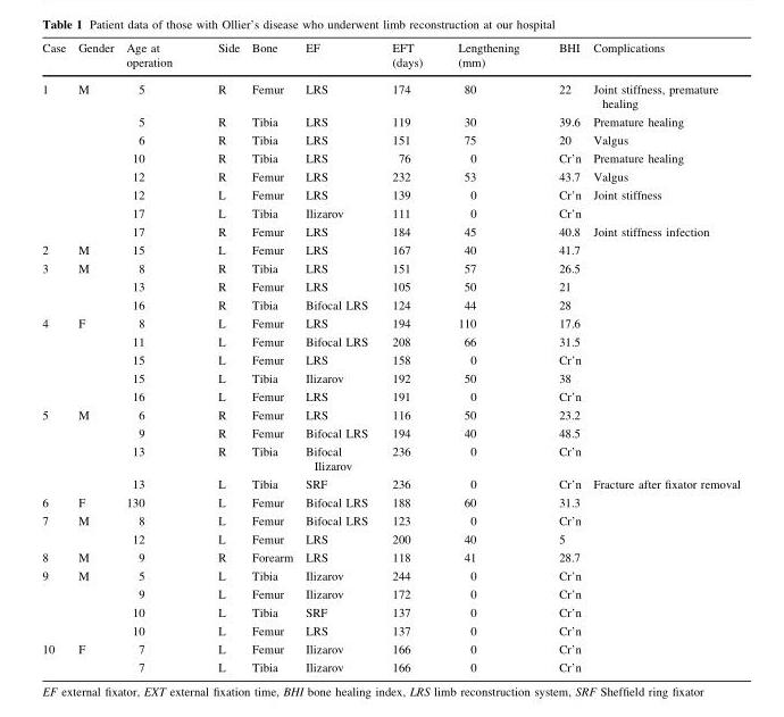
<table><thead><tr><td>Case</td><td>Gender</td><td>Age at operation</td><td>Side</td><td>Bone</td><td>EF</td><td>EFT (days)</td><td>Lengthening (mm)</td><td>BHI</td><td>Complications</td></tr></thead><tbody><tr><td rowspan="8">1</td><td rowspan="8">M</td><td>5</td><td>R</td><td>Femur</td><td>LRS</td><td>174</td><td>80</td><td>22</td><td>Joint stiffness, premature healing</td></tr><tr><td>5</td><td>R</td><td>Tibia</td><td>LRS</td><td>119</td><td>30</td><td>39.6</td><td>Premature healing</td></tr><tr><td>6</td><td>R</td><td>Tibia</td><td>LRS</td><td>151</td><td>75</td><td>20</td><td>Valgus</td></tr><tr><td>10</td><td>R</td><td>Tibia</td><td>LRS</td><td>76</td><td>0</td><td>Cr’n</td><td>Premature healing</td></tr><tr><td>12</td><td>R</td><td>Femur</td><td>LRS</td><td>232</td><td>53</td><td>43.7</td><td>Valgus</td></tr><tr><td>12</td><td>L</td><td>Femur</td><td>LRS</td><td>139</td><td>0</td><td>Cr’n</td><td>Joint stiffness</td></tr><tr><td>17</td><td>L</td><td>Tibia</td><td>Ilizarov</td><td>111</td><td>0</td><td>Cr’n</td><td></td></tr><tr><td>17</td><td>R</td><td>Femur</td><td>LRS</td><td>184</td><td>45</td><td>40.8</td><td>Joint stiffness infection</td></tr><tr><td>2</td><td>M</td><td>15</td><td>L</td><td>Femur</td><td>LRS</td><td>167</td><td>40</td><td>41.7</td><td></td></tr><tr><td rowspan="3">3</td><td rowspan="3">M</td><td>8</td><td>R</td><td>Tibia</td><td>LRS</td><td>151</td><td>57</td><td>26.5</td><td></td></tr><tr><td>13</td><td>R</td><td>Femur</td><td>LRS</td><td>105</td><td>50</td><td>21</td><td></td></tr><tr><td>16</td><td>R</td><td>Tibia</td><td>Bifocal LRS</td><td>124</td><td>44</td><td>28</td><td></td></tr><tr><td rowspan="5">4</td><td rowspan="5">F</td><td>8</td><td>L</td><td>Femur</td><td>LRS</td><td>194</td><td>110</td><td>17.6</td><td></td></tr><tr><td>11</td><td>L</td><td>Femur</td><td>Bifocal LRS</td><td>208</td><td>66</td><td>31.5</td><td></td></tr><tr><td>15</td><td>L</td><td>Femur</td><td>LRS</td><td>158</td><td>0</td><td>Cr’n</td><td></td></tr><tr><td>15</td><td>L</td><td>Tibia</td><td>Ilizarov</td><td>192</td><td>50</td><td>38</td><td></td></tr><tr><td>16</td><td>L</td><td>Femur</td><td>LRS</td><td>191</td><td>0</td><td>Cr’n</td><td></td></tr><tr><td rowspan="4">5</td><td rowspan="4">M</td><td>6</td><td>R</td><td>Femur</td><td>LRS</td><td>116</td><td>50</td><td>23.2</td><td></td></tr><tr><td>9</td><td>R</td><td>Femur</td><td>Bifocal LRS</td><td>194</td><td>40</td><td>48.5</td><td></td></tr><tr><td>13</td><td>R</td><td>Tibia</td><td>Bifocal Ilizarov</td><td>236</td><td>0</td><td>Cr’n</td><td></td></tr><tr><td>13</td><td>L</td><td>Tibia</td><td>SRF</td><td>236</td><td>0</td><td>Cr’n</td><td>Fracture after fixator removal</td></tr><tr><td>6</td><td>F</td><td>130</td><td>L</td><td>Femur</td><td>Bifocal LRS</td><td>188</td><td>60</td><td>31.3</td><td></td></tr><tr><td rowspan="2">7</td><td rowspan="2">M</td><td>8</td><td>L</td><td>Femur</td><td>Bifocal LRS</td><td>123</td><td>0</td><td>Cr’n</td><td></td></tr><tr><td>12</td><td>L</td><td>Femur</td><td>LRS</td><td>200</td><td>40</td><td>5</td><td></td></tr><tr><td>8</td><td>M</td><td>9</td><td>R</td><td>Forearm</td><td>LRS</td><td>118</td><td>41</td><td>28.7</td><td></td></tr><tr><td rowspan="4">9</td><td rowspan="4">M</td><td>5</td><td>L</td><td>Tibia</td><td>Ilizarov</td><td>244</td><td>0</td><td>Cr’n</td><td></td></tr><tr><td>9</td><td>L</td><td>Femur</td><td>Ilizarov</td><td>172</td><td>0</td><td>Cr’n</td><td></td></tr><tr><td>10</td><td>L</td><td>Tibia</td><td>SRF</td><td>137</td><td>0</td><td>Cr’n</td><td></td></tr><tr><td>10</td><td>L</td><td>Femur</td><td>LRS</td><td>137</td><td>0</td><td>Cr’n</td><td></td></tr><tr><td rowspan="2">10</td><td rowspan="2">F</td><td>7</td><td>L</td><td>Femur</td><td>Ilizarov</td><td>166</td><td>0</td><td>Cr’n</td><td></td></tr><tr><td>7</td><td>L</td><td>Tibia</td><td>Ilizarov</td><td>166</td><td>0</td><td>Cr’n</td><td></td></tr></tbody></table>